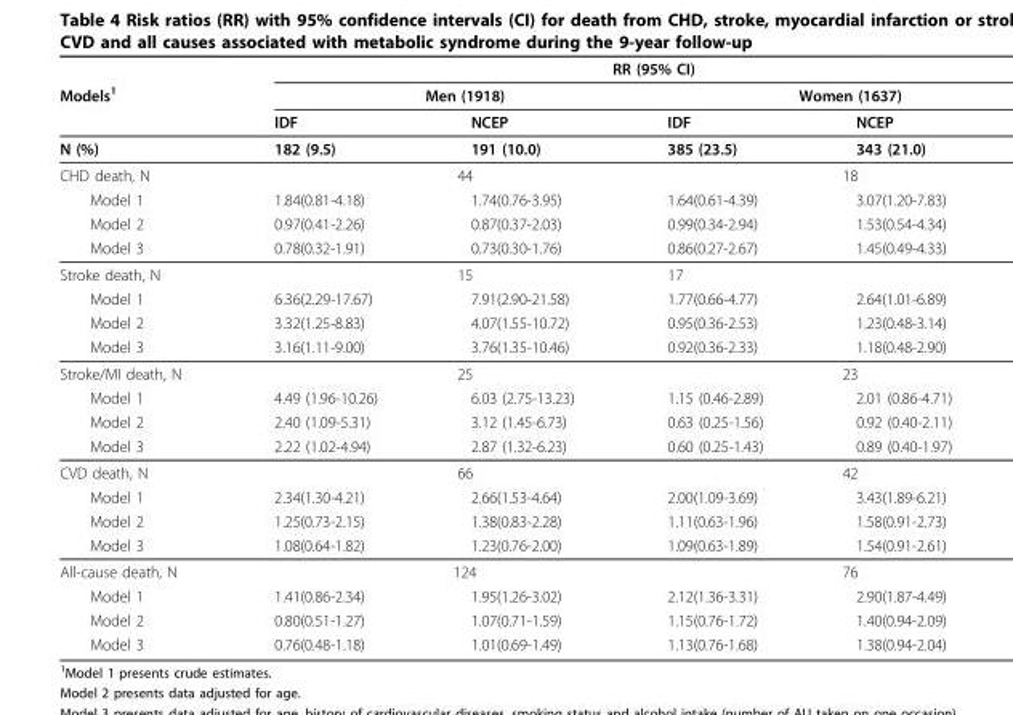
<table><thead><tr><td rowspan="3">Models<sup>1</sup></td><td colspan="4">RR (95% CI)</td></tr><tr><td colspan="2">Men (1918)</td><td colspan="2">Women (1637)</td></tr><tr><td>IDF</td><td>NCEP</td><td>IDF</td><td>NCEP</td></tr></thead><tbody><tr><td>N (%)</td><td>182 (9.5)</td><td>191 (10.0)</td><td>385 (23.5)</td><td>343 (21.0)</td></tr><tr><td>CHD death, N</td><td colspan="2">44</td><td colspan="2">18</td></tr><tr><td>Model 1</td><td>1.84(0.81-4.18)</td><td>1.74(0.76-3.95)</td><td>1.64(0.61-4.39)</td><td>3.07(1.20-7.83)</td></tr><tr><td>Model 2</td><td>0.97(0.41-2.26)</td><td>0.87(0.37-2.03)</td><td>0.99(0.34-2.94)</td><td>1.53(0.54-4.34)</td></tr><tr><td>Model 3</td><td>0.78(0.32-1.91)</td><td>0.73(0.30-1.76)</td><td>0.86(0.27-2.67)</td><td>1.45(0.49-4.33)</td></tr><tr><td>Stroke death, N</td><td colspan="2">15</td><td colspan="2">17</td></tr><tr><td>Model 1</td><td>6.36(2.29-17.67)</td><td>7.91(2.90-21.58)</td><td>1.77(0.66-4.77)</td><td>2.64(1.01-6.89)</td></tr><tr><td>Model 2</td><td>3.32(1.25-8.83)</td><td>4.07(1.55-10.72)</td><td>0.95(0.36-2.53)</td><td>1.23(0.48-3.14)</td></tr><tr><td>Model 3</td><td>3.16(1.11-9.00)</td><td>3.76(1.35-10.46)</td><td>0.92(0.36-2.33)</td><td>1.18(0.48-2.90)</td></tr><tr><td>Stroke/MI death, N</td><td colspan="2">25</td><td colspan="2">23</td></tr><tr><td>Model 1</td><td>4.49 (1.96-10.26)</td><td>6.03 (2.75-13.23)</td><td>1.15 (0.46-2.89)</td><td>2.01 (0.86-4.71)</td></tr><tr><td>Model 2</td><td>2.40 (1.09-5.31)</td><td>3.12 (1.45-6.73)</td><td>0.63 (0.25-1.56)</td><td>0.92 (0.40-2.11)</td></tr><tr><td>Model 3</td><td>2.22 (1.02-4.94)</td><td>2.87 (1.32-6.23)</td><td>0.60 (0.25-1.43)</td><td>0.89 (0.40-1.97)</td></tr><tr><td>CVD death, N</td><td colspan="2">66</td><td colspan="2">42</td></tr><tr><td>Model 1</td><td>2.34(1.30-4.21)</td><td>2.66(1.53-4.64)</td><td>2.00(1.09-3.69)</td><td>3.43(1.89-6.21)</td></tr><tr><td>Model 2</td><td>1.25(0.73-2.15)</td><td>1.38(0.83-2.28)</td><td>1.11(0.63-1.96)</td><td>1.58(0.91-2.73)</td></tr><tr><td>Model 3</td><td>1.08(0.64-1.82)</td><td>1.23(0.76-2.00)</td><td>1.09(0.63-1.89)</td><td>1.54(0.91-2.61)</td></tr><tr><td>All-cause death, N</td><td colspan="2">124</td><td colspan="2">76</td></tr><tr><td>Model 1</td><td>1.41(0.86-2.34)</td><td>1.95(1.26-3.02)</td><td>2.12(1.36-3.31)</td><td>2.90(1.87-4.49)</td></tr><tr><td>Model 2</td><td>0.80(0.51-1.27)</td><td>1.07(0.71-1.59)</td><td>1.15(0.76-1.72)</td><td>1.40(0.94-2.09)</td></tr><tr><td>Model 3</td><td>0.76(0.48-1.18)</td><td>1.01(0.69-1.49)</td><td>1.13(0.76-1.68)</td><td>1.38(0.94-2.04)</td></tr></tbody></table>